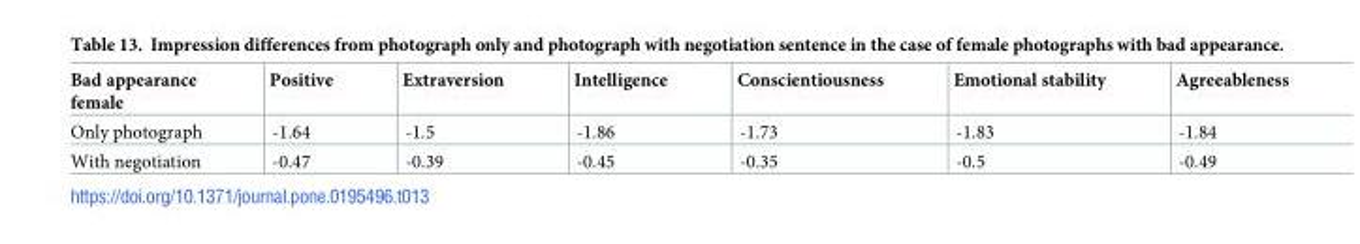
<table><thead><tr><td>Bad appearance female</td><td>Positive</td><td>Extraversion</td><td>Intelligence</td><td>Conscientiousness</td><td>Emotional stability</td><td>Agreeableness</td></tr></thead><tbody><tr><td>Only photograph</td><td>-1.64</td><td>-1.5</td><td>-1.86</td><td>-1.73</td><td>-1.83</td><td>-1.84</td></tr><tr><td>With negotiation</td><td>-0.47</td><td>-0.39</td><td>-0.45</td><td>-0.35</td><td>-0.5</td><td>-0.49</td></tr></tbody></table>